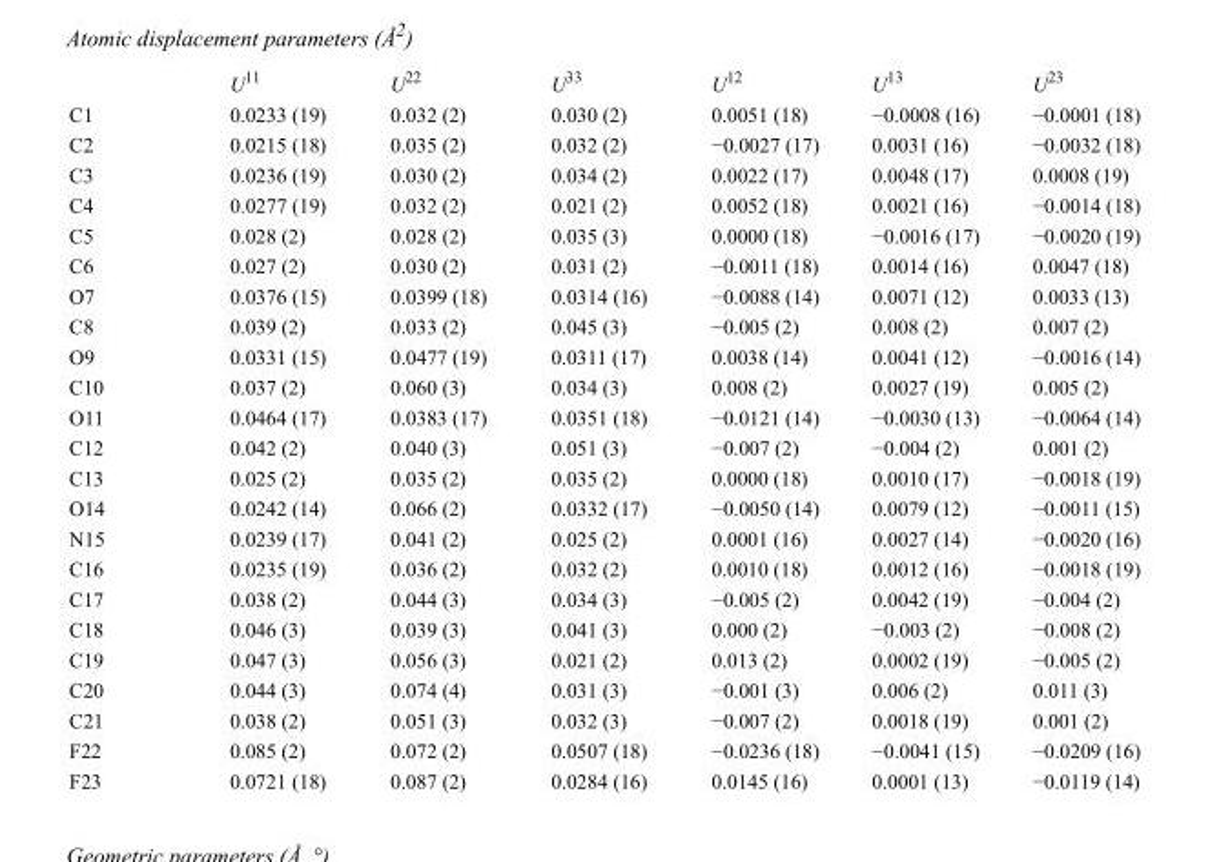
<table><thead><tr><td></td><td>U<sup>11</sup></td><td>U<sup>22</sup></td><td>U<sup>33</sup></td><td>U<sup>12</sup></td><td>U<sup>13</sup></td><td>U<sup>23</sup></td></tr></thead><tbody><tr><td>C1</td><td>0.0233 (19)</td><td>0.032 (2)</td><td>0.030 (2)</td><td>0.0051 (18)</td><td>−0.0008 (16)</td><td>−0.0001 (18)</td></tr><tr><td>C2</td><td>0.0215 (18)</td><td>0.035 (2)</td><td>0.032 (2)</td><td>−0.0027 (17)</td><td>0.0031 (16)</td><td>−0.0032 (18)</td></tr><tr><td>C3</td><td>0.0236 (19)</td><td>0.030 (2)</td><td>0.034 (2)</td><td>0.0022 (17)</td><td>0.0048 (17)</td><td>0.0008 (19)</td></tr><tr><td>C4</td><td>0.0277 (19)</td><td>0.032 (2)</td><td>0.021 (2)</td><td>0.0052 (18)</td><td>0.0021 (16)</td><td>−0.0014 (18)</td></tr><tr><td>C5</td><td>0.028 (2)</td><td>0.028 (2)</td><td>0.035 (3)</td><td>0.0000 (18)</td><td>−0.0016 (17)</td><td>−0.0020 (19)</td></tr><tr><td>C6</td><td>0.027 (2)</td><td>0.030 (2)</td><td>0.031 (2)</td><td>−0.0011 (18)</td><td>0.0014 (16)</td><td>0.0047 (18)</td></tr><tr><td>O7</td><td>0.0376 (15)</td><td>0.0399 (18)</td><td>0.0314 (16)</td><td>−0.0088 (14)</td><td>0.0071 (12)</td><td>0.0033 (13)</td></tr><tr><td>C8</td><td>0.039 (2)</td><td>0.033 (2)</td><td>0.045 (3)</td><td>−0.005 (2)</td><td>0.008 (2)</td><td>0.007 (2)</td></tr><tr><td>O9</td><td>0.0331 (15)</td><td>0.0477 (19)</td><td>0.0311 (17)</td><td>0.0038 (14)</td><td>0.0041 (12)</td><td>−0.0016 (14)</td></tr><tr><td>C10</td><td>0.037 (2)</td><td>0.060 (3)</td><td>0.034 (3)</td><td>0.008 (2)</td><td>0.0027 (19)</td><td>0.005 (2)</td></tr><tr><td>O11</td><td>0.0464 (17)</td><td>0.0383 (17)</td><td>0.0351 (18)</td><td>−0.0121 (14)</td><td>−0.0030 (13)</td><td>−0.0064 (14)</td></tr><tr><td>C12</td><td>0.042 (2)</td><td>0.040 (3)</td><td>0.051 (3)</td><td>−0.007 (2)</td><td>−0.004 (2)</td><td>0.001 (2)</td></tr><tr><td>C13</td><td>0.025 (2)</td><td>0.035 (2)</td><td>0.035 (2)</td><td>0.0000 (18)</td><td>0.0010 (17)</td><td>−0.0018 (19)</td></tr><tr><td>O14</td><td>0.0242 (14)</td><td>0.066 (2)</td><td>0.0332 (17)</td><td>−0.0050 (14)</td><td>0.0079 (12)</td><td>−0.0011 (15)</td></tr><tr><td>N15</td><td>0.0239 (17)</td><td>0.041 (2)</td><td>0.025 (2)</td><td>0.0001 (16)</td><td>0.0027 (14)</td><td>−0.0020 (16)</td></tr><tr><td>C16</td><td>0.0235 (19)</td><td>0.036 (2)</td><td>0.032 (2)</td><td>0.0010 (18)</td><td>0.0012 (16)</td><td>−0.0018 (19)</td></tr><tr><td>C17</td><td>0.038 (2)</td><td>0.044 (3)</td><td>0.034 (3)</td><td>−0.005 (2)</td><td>0.0042 (19)</td><td>−0.004 (2)</td></tr><tr><td>C18</td><td>0.046 (3)</td><td>0.039 (3)</td><td>0.041 (3)</td><td>0.000 (2)</td><td>−0.003 (2)</td><td>−0.008 (2)</td></tr><tr><td>C19</td><td>0.047 (3)</td><td>0.056 (3)</td><td>0.021 (2)</td><td>0.013 (2)</td><td>0.0002 (19)</td><td>−0.005 (2)</td></tr><tr><td>C20</td><td>0.044 (3)</td><td>0.074 (4)</td><td>0.031 (3)</td><td>−0.001 (3)</td><td>0.006 (2)</td><td>0.011 (3)</td></tr><tr><td>C21</td><td>0.038 (2)</td><td>0.051 (3)</td><td>0.032 (3)</td><td>−0.007 (2)</td><td>0.0018 (19)</td><td>0.001 (2)</td></tr><tr><td>F22</td><td>0.085 (2)</td><td>0.072 (2)</td><td>0.0507 (18)</td><td>−0.0236 (18)</td><td>−0.0041 (15)</td><td>−0.0209 (16)</td></tr><tr><td>F23</td><td>0.0721 (18)</td><td>0.087 (2)</td><td>0.0284 (16)</td><td>0.0145 (16)</td><td>0.0001 (13)</td><td>−0.0119 (14)</td></tr></tbody></table>